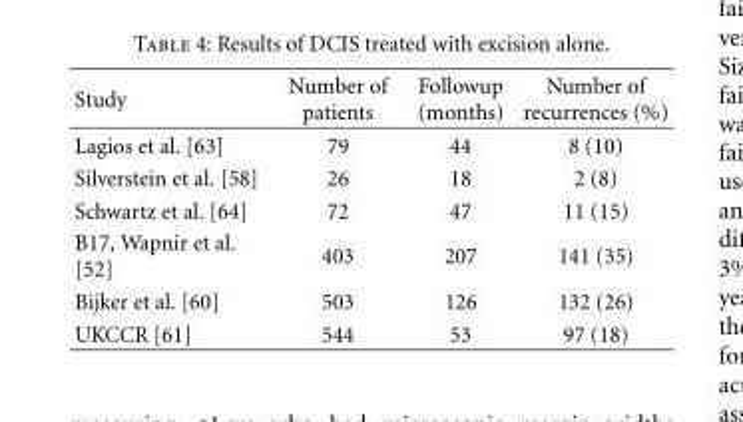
<table><thead><tr><td>Study</td><td>Number of patients</td><td>Followup (months)</td><td>Number of recurrences (%)</td></tr></thead><tbody><tr><td>Lagios et al. [63]</td><td>79</td><td>44</td><td>8 (10)</td></tr><tr><td>Silverstein et al. [58]</td><td>26</td><td>18</td><td>2 (8)</td></tr><tr><td>Schwartz et al. [64]</td><td>72</td><td>47</td><td>11 (15)</td></tr><tr><td>B17, Wapnir et al. [52]</td><td>403</td><td>207</td><td>141 (35)</td></tr><tr><td>Bijker et al. [60]</td><td>503</td><td>126</td><td>132 (26)</td></tr><tr><td>UKCCR [61]</td><td>544</td><td>53</td><td>97 (18)</td></tr></tbody></table>